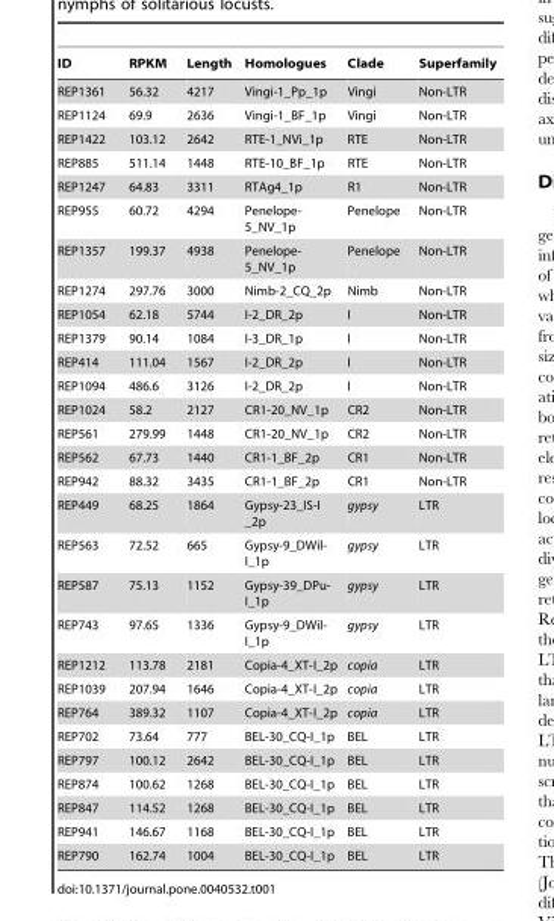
<table><thead><tr><td>ID</td><td>RPKM</td><td>Length</td><td>Homologues</td><td>Clade</td><td>Superfamily</td></tr></thead><tbody><tr><td>REP1361</td><td>56.32</td><td>4217</td><td>Vingi-1_Pp_1p</td><td>Vingi</td><td>Non-LTR</td></tr><tr><td>REP1124</td><td>69.9</td><td>2636</td><td>Vingi-1_BF_1p</td><td>Vingi</td><td>Non-LTR</td></tr><tr><td>REP1422</td><td>103.12</td><td>2642</td><td>RTE-1_NVi_1p</td><td>RTE</td><td>Non-LTR</td></tr><tr><td>REP885</td><td>511.14</td><td>1448</td><td>RTE-10_BF_1p</td><td>RTE</td><td>Non-LTR</td></tr><tr><td>REP1247</td><td>64.83</td><td>3311</td><td>RTAg4_1p</td><td>R1</td><td>Non-LTR</td></tr><tr><td>REP955</td><td>60.72</td><td>4294</td><td>Penelope- 5_NV_1p</td><td>Penelope</td><td>Non-LTR</td></tr><tr><td>REP1357</td><td>199.37</td><td>4938</td><td>Penelope- 5_NV_1p</td><td>Penelope</td><td>Non-LTR</td></tr><tr><td>REP1274</td><td>297.76</td><td>3000</td><td>Nimb-2_CQ_2p</td><td>Nimb</td><td>Non-LTR</td></tr><tr><td>REP1054</td><td>62.18</td><td>5744</td><td>I-2_DR_2p</td><td>I</td><td>Non-LTR</td></tr><tr><td>REP1379</td><td>90.14</td><td>1084</td><td>I-3_DR_1p</td><td>I</td><td>Non-LTR</td></tr><tr><td>REP414</td><td>111.04</td><td>1567</td><td>I-2_DR_2p</td><td>I</td><td>Non-LTR</td></tr><tr><td>REP1094</td><td>486.6</td><td>3126</td><td>I-2_DR_2p</td><td>I</td><td>Non-LTR</td></tr><tr><td>REP1024</td><td>58.2</td><td>2127</td><td>CR1-20_NV_1p</td><td>CR2</td><td>Non-LTR</td></tr><tr><td>REP561</td><td>279.99</td><td>1448</td><td>CR1-20_NV_1p</td><td>CR2</td><td>Non-LTR</td></tr><tr><td>REP562</td><td>67.73</td><td>1440</td><td>CR1-1_BF_2p</td><td>CR1</td><td>Non-LTR</td></tr><tr><td>REP942</td><td>88.32</td><td>3435</td><td>CR1-1_BF_2p</td><td>CR1</td><td>Non-LTR</td></tr><tr><td>REP449</td><td>68.25</td><td>1864</td><td>Gypsy-23_IS-I _2p</td><td>gypsy</td><td>LTR</td></tr><tr><td>REP563</td><td>72.52</td><td>665</td><td>Gypsy-9_DWil- I_1p</td><td>gypsy</td><td>LTR</td></tr><tr><td>REP587</td><td>75.13</td><td>1152</td><td>Gypsy-39_DPu- I_1p</td><td>gypsy</td><td>LTR</td></tr><tr><td>REP743</td><td>97.65</td><td>1336</td><td>Gypsy-9_DWil- I_1p</td><td>gypsy</td><td>LTR</td></tr><tr><td>REP1212</td><td>113.78</td><td>2181</td><td>Copia-4_XT-I_2p</td><td>copia</td><td>LTR</td></tr><tr><td>REP1039</td><td>207.94</td><td>1646</td><td>Copia-4_XT-I_2p</td><td>copia</td><td>LTR</td></tr><tr><td>REP764</td><td>389.32</td><td>1107</td><td>Copia-4_XT-I_2p</td><td>copia</td><td>LTR</td></tr><tr><td>REP702</td><td>73.64</td><td>777</td><td>BEL-30_CQ-I_1p</td><td>BEL</td><td>LTR</td></tr><tr><td>REP797</td><td>100.12</td><td>2642</td><td>BEL-30_CQ-I_1p</td><td>BEL</td><td>LTR</td></tr><tr><td>REP874</td><td>100.62</td><td>1268</td><td>BEL-30_CQ-I_1p</td><td>BEL</td><td>LTR</td></tr><tr><td>REP847</td><td>114.52</td><td>1268</td><td>BEL-30_CQ-I_1p</td><td>BEL</td><td>LTR</td></tr><tr><td>REP941</td><td>146.67</td><td>1168</td><td>BEL-30_CQ-I_1p</td><td>BEL</td><td>LTR</td></tr><tr><td>REP790</td><td>162.74</td><td>1004</td><td>BEL-30_CQ-I_1p</td><td>BEL</td><td>LTR</td></tr></tbody></table>